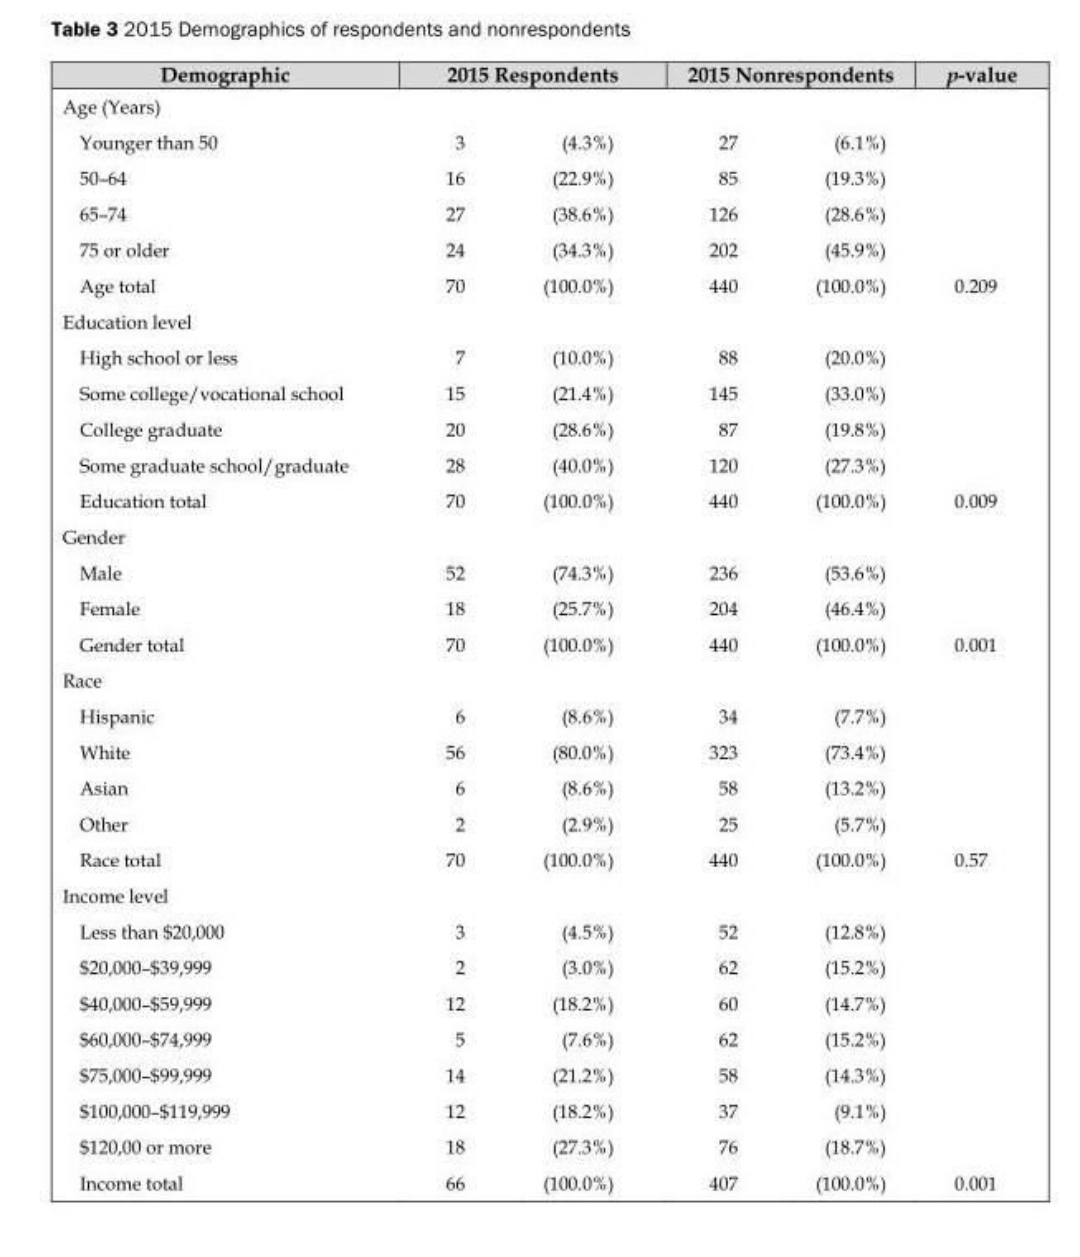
<table><thead><tr><td>Demographic</td><td colspan="2">2015 Respondents</td><td colspan="2">2015 Nonrespondents</td><td>p-value</td></tr><tr><td colspan="6">Age (Years)</td></tr><tr><td>Younger than 50</td><td>3</td><td>(4.3%)</td><td>27</td><td>(6.1%)</td><td></td></tr></thead><tbody><tr><td>50–64</td><td>16</td><td>(22.9%)</td><td>85</td><td>(19.3%)</td><td></td></tr><tr><td>65–74</td><td>27</td><td>(38.6%)</td><td>126</td><td>(28.6%)</td><td></td></tr><tr><td>75 or older</td><td>24</td><td>(34.3%)</td><td>202</td><td>(45.9%)</td><td></td></tr><tr><td>Age total</td><td>70</td><td>(100.0%)</td><td>440</td><td>(100.0%)</td><td>0.209</td></tr><tr><td colspan="6">Education level</td></tr><tr><td>High school or less</td><td>7</td><td>(10.0%)</td><td>88</td><td>(20.0%)</td><td></td></tr><tr><td>Some college/vocational school</td><td>15</td><td>(21.4%)</td><td>145</td><td>(33.0%)</td><td></td></tr><tr><td>College graduate</td><td>20</td><td>(28.6%)</td><td>87</td><td>(19.8%)</td><td></td></tr><tr><td>Some graduate school/graduate</td><td>28</td><td>(40.0%)</td><td>120</td><td>(27.3%)</td><td></td></tr><tr><td>Education total</td><td>70</td><td>(100.0%)</td><td>440</td><td>(100.0%)</td><td>0.009</td></tr><tr><td colspan="6">Gender</td></tr><tr><td>Male</td><td>52</td><td>(74.3%)</td><td>236</td><td>(53.6%)</td><td></td></tr><tr><td>Female</td><td>18</td><td>(25.7%)</td><td>204</td><td>(46.4%)</td><td></td></tr><tr><td>Gender total</td><td>70</td><td>(100.0%)</td><td>440</td><td>(100.0%)</td><td>0.001</td></tr><tr><td colspan="6">Race</td></tr><tr><td>Hispanic</td><td>6</td><td>(8.6%)</td><td>34</td><td>(7.7%)</td><td></td></tr><tr><td>White</td><td>56</td><td>(80.0%)</td><td>323</td><td>(73.4%)</td><td></td></tr><tr><td>Asian</td><td>6</td><td>(8.6%)</td><td>58</td><td>(13.2%)</td><td></td></tr><tr><td>Other</td><td>2</td><td>(2.9%)</td><td>25</td><td>(5.7%)</td><td></td></tr><tr><td>Race total</td><td>70</td><td>(100.0%)</td><td>440</td><td>(100.0%)</td><td>0.57</td></tr><tr><td colspan="6">Income level</td></tr><tr><td>Less than $20,000</td><td>3</td><td>(4.5%)</td><td>52</td><td>(12.8%)</td><td></td></tr><tr><td>$20,000–$39,999</td><td>2</td><td>(3.0%)</td><td>62</td><td>(15.2%)</td><td></td></tr><tr><td>$40,000–$59,999</td><td>12</td><td>(18.2%)</td><td>60</td><td>(14.7%)</td><td></td></tr><tr><td>$60,000–$74,999</td><td>5</td><td>(7.6%)</td><td>62</td><td>(15.2%)</td><td></td></tr><tr><td>$75,000–$99,999</td><td>14</td><td>(21.2%)</td><td>58</td><td>(14.3%)</td><td></td></tr><tr><td>$100,000–$119,999</td><td>12</td><td>(18.2%)</td><td>37</td><td>(9.1%)</td><td></td></tr><tr><td>$120,00 or more</td><td>18</td><td>(27.3%)</td><td>76</td><td>(18.7%)</td><td></td></tr><tr><td>Income total</td><td>66</td><td>(100.0%)</td><td>407</td><td>(100.0%)</td><td>0.001</td></tr></tbody></table>